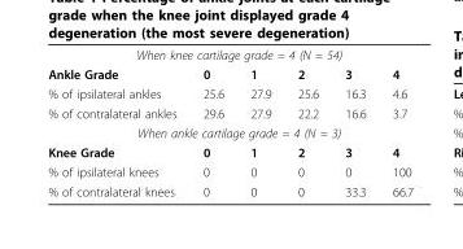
<table><tbody><tr><td colspan="6">When knee cartilage grade = 4 (N = 54)</td></tr><tr><td>Ankle Grade</td><td>0</td><td>1</td><td>2</td><td>3</td><td>4</td></tr><tr><td>% of ipsilateral ankles</td><td>25.6</td><td>27.9</td><td>25.6</td><td>16.3</td><td>4.6</td></tr><tr><td>% of contralateral ankles</td><td>29.6</td><td>27.9</td><td>22.2</td><td>16.6</td><td>3.7</td></tr><tr><td colspan="6">When ankle cartilage grade = 4 (N = 3)</td></tr><tr><td>Knee Grade</td><td>0</td><td>1</td><td>2</td><td>3</td><td>4</td></tr><tr><td>% of ipsilateral knees</td><td>0</td><td>0</td><td>0</td><td>0</td><td>100</td></tr><tr><td>% of contralateral knees</td><td>0</td><td>0</td><td>0</td><td>33.3</td><td>66.7</td></tr></tbody></table>